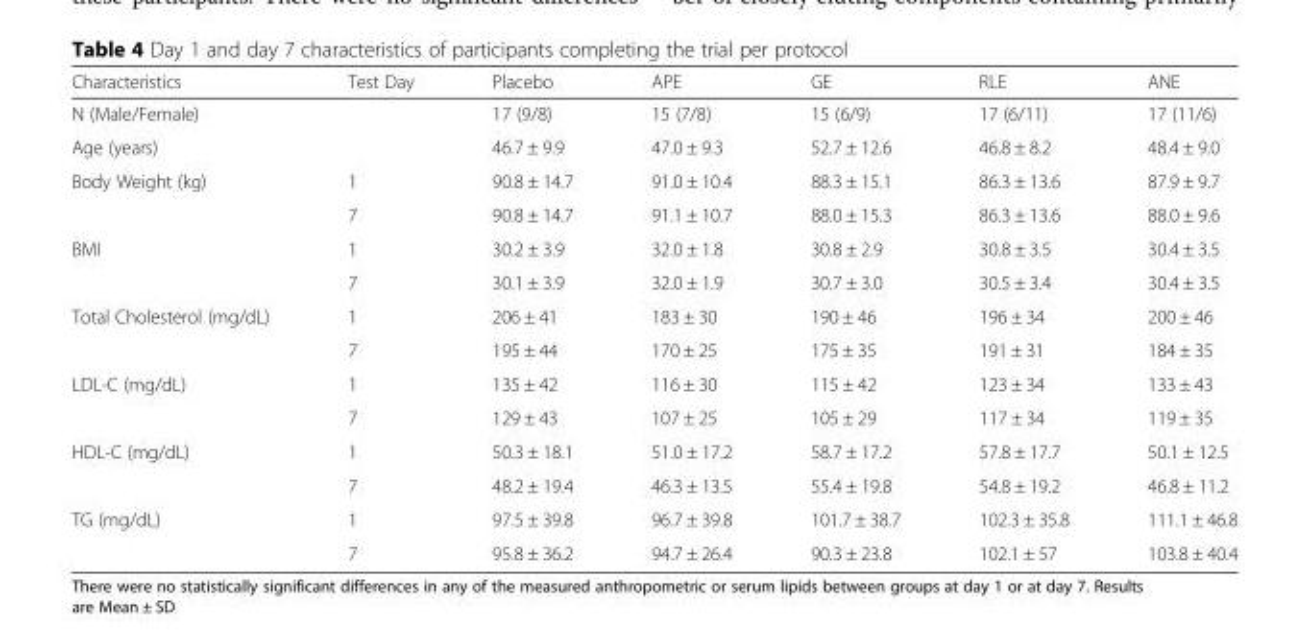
<table><thead><tr><td>Characteristics</td><td>Test Day</td><td>Placebo</td><td>APE</td><td>GE</td><td>RLE</td><td>ANE</td></tr></thead><tbody><tr><td>N (Male/Female)</td><td></td><td>17 (9/8)</td><td>15 (7/8)</td><td>15 (6/9)</td><td>17 (6/11)</td><td>17 (11/6)</td></tr><tr><td>Age (years)</td><td></td><td>46.7 ± 9.9</td><td>47.0 ± 9.3</td><td>52.7 ± 12.6</td><td>46.8 ± 8.2</td><td>48.4 ± 9.0</td></tr><tr><td rowspan="2">Body Weight (kg)</td><td>1</td><td>90.8 ± 14.7</td><td>91.0 ± 10.4</td><td>88.3 ± 15.1</td><td>86.3 ± 13.6</td><td>87.9 ± 9.7</td></tr><tr><td>7</td><td>90.8 ± 14.7</td><td>91.1 ± 10.7</td><td>88.0 ± 15.3</td><td>86.3 ± 13.6</td><td>88.0 ± 9.6</td></tr><tr><td rowspan="2">BMI</td><td>1</td><td>30.2 ± 3.9</td><td>32.0 ± 1.8</td><td>30.8 ± 2.9</td><td>30.8 ± 3.5</td><td>30.4 ± 3.5</td></tr><tr><td>7</td><td>30.1 ± 3.9</td><td>32.0 ± 1.9</td><td>30.7 ± 3.0</td><td>30.5 ± 3.4</td><td>30.4 ± 3.5</td></tr><tr><td rowspan="2">Total Cholesterol (mg/dL)</td><td>1</td><td>206 ± 41</td><td>183 ± 30</td><td>190 ± 46</td><td>196 ± 34</td><td>200 ± 46</td></tr><tr><td>7</td><td>195 ± 44</td><td>170 ± 25</td><td>175 ± 35</td><td>191 ± 31</td><td>184 ± 35</td></tr><tr><td rowspan="2">LDL-C (mg/dL)</td><td>1</td><td>135 ± 42</td><td>116 ± 30</td><td>115 ± 42</td><td>123 ± 34</td><td>133 ± 43</td></tr><tr><td>7</td><td>129 ± 43</td><td>107 ± 25</td><td>105 ± 29</td><td>117 ± 34</td><td>119 ± 35</td></tr><tr><td rowspan="2">HDL-C (mg/dL)</td><td>1</td><td>50.3 ± 18.1</td><td>51.0 ± 17.2</td><td>58.7 ± 17.2</td><td>57.8 ± 17.7</td><td>50.1 ± 12.5</td></tr><tr><td>7</td><td>48.2 ± 19.4</td><td>46.3 ± 13.5</td><td>55.4 ± 19.8</td><td>54.8 ± 19.2</td><td>46.8 ± 11.2</td></tr><tr><td rowspan="2">TG (mg/dL)</td><td>1</td><td>97.5 ± 39.8</td><td>96.7 ± 39.8</td><td>101.7 ± 38.7</td><td>102.3 ± 35.8</td><td>111.1 ± 46.8</td></tr><tr><td>7</td><td>95.8 ± 36.2</td><td>94.7 ± 26.4</td><td>90.3 ± 23.8</td><td>102.1 ± 57</td><td>103.8 ± 40.4</td></tr></tbody></table>